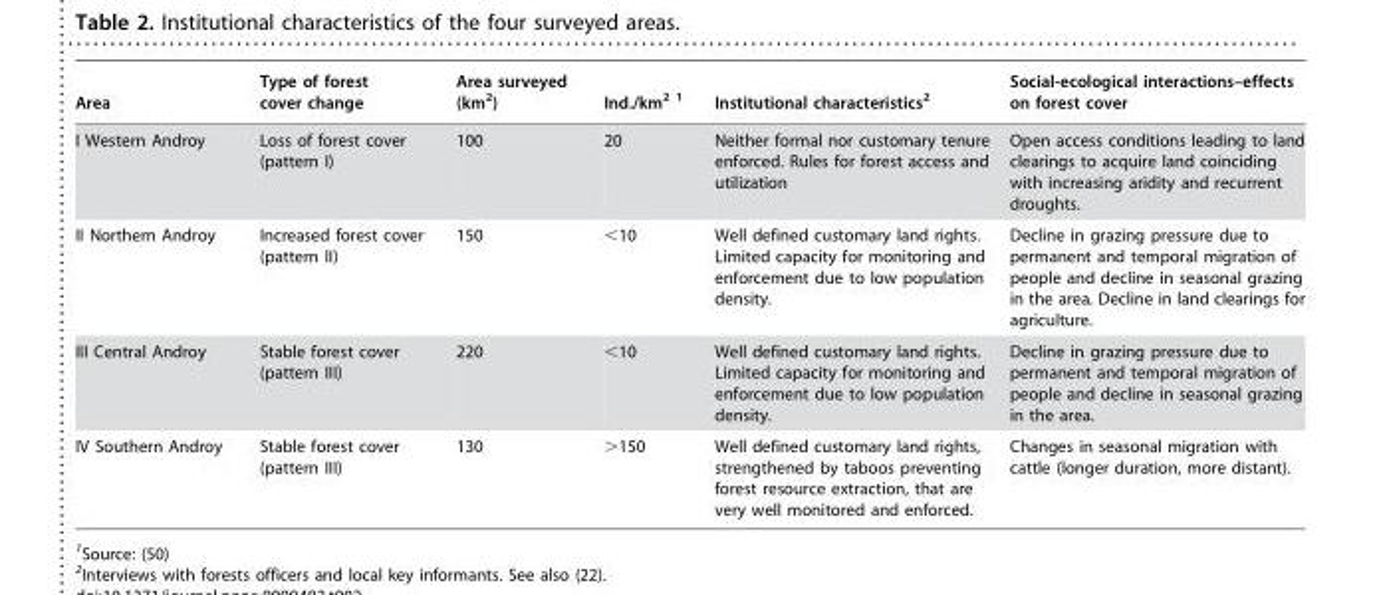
<table><thead><tr><td>Area</td><td>Type of forest cover change</td><td>Area surveyed (km<sup>2</sup>)</td><td>Ind./km<sup>2</sup> 1</td><td>Institutional characteristics<sup>2</sup></td><td>Social-ecological interactions–effects on forest cover</td></tr></thead><tbody><tr><td>I Western Androy</td><td>Loss of forest cover (pattern I)</td><td>100</td><td>20</td><td>Neither formal nor customary tenure enforced. Rules for forest access and utilization</td><td>Open access conditions leading to land clearings to acquire land coinciding with increasing aridity and recurrent droughts.</td></tr><tr><td>II Northern Androy</td><td>Increased forest cover (pattern II)</td><td>150</td><td>&lt;10</td><td>Well defined customary land rights. Limited capacity for monitoring and enforcement due to low population density.</td><td>Decline in grazing pressure due to permanent and temporal migration of people and decline in seasonal grazing in the area. Decline in land clearings for agriculture.</td></tr><tr><td>III Central Androy</td><td>Stable forest cover (pattern III)</td><td>220</td><td>&lt;10</td><td>Well defined customary land rights. Limited capacity for monitoring and enforcement due to low population density.</td><td>Decline in grazing pressure due to permanent and temporal migration of people and decline in seasonal grazing in the area.</td></tr><tr><td>IV Southern Androy</td><td>Stable forest cover (pattern III)</td><td>130</td><td>&gt;150</td><td>Well defined customary land rights, strengthened by taboos preventing forest resource extraction, that are very well monitored and enforced.</td><td>Changes in seasonal migration with cattle (longer duration, more distant).</td></tr></tbody></table>